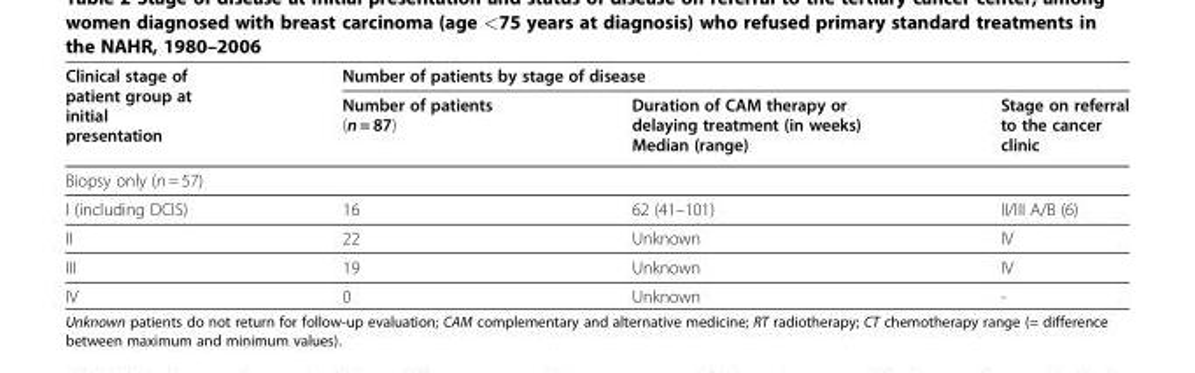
<table><thead><tr><td rowspan="2">Clinical stage of patient group at initial presentation</td><td colspan="3">Number of patients by stage of disease</td></tr><tr><td>Number of patients (n = 87)</td><td>Duration of CAM therapy or delaying treatment (in weeks) Median (range)</td><td>Stage on referral to the cancer clinic</td></tr></thead><tbody><tr><td colspan="4">Biopsy only (n = 57)</td></tr><tr><td>I (including DCIS)</td><td>16</td><td>62 (41–101)</td><td>II/III A/B (6)</td></tr><tr><td>II</td><td>22</td><td>Unknown</td><td>IV</td></tr><tr><td>III</td><td>19</td><td>Unknown</td><td>IV</td></tr><tr><td>IV</td><td>0</td><td>Unknown</td><td>-</td></tr></tbody></table>